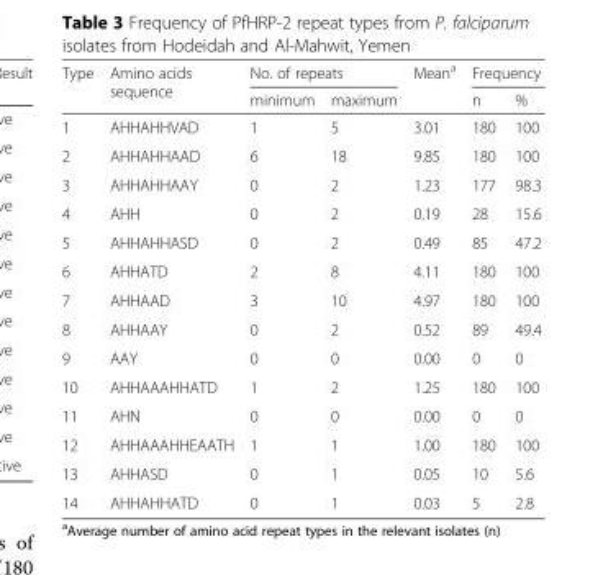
<table><thead><tr><td rowspan="2">Type</td><td rowspan="2">Amino acids sequence</td><td colspan="2">No. of repeats</td><td rowspan="2">Mean<sup>a</sup></td><td colspan="2">Frequency</td></tr><tr><td>minimum</td><td>maximum</td><td>n</td><td>%</td></tr></thead><tbody><tr><td>1</td><td>AHHAHHVAD</td><td>1</td><td>5</td><td>3.01</td><td>180</td><td>100</td></tr><tr><td>2</td><td>AHHAHHAAD</td><td>6</td><td>18</td><td>9.85</td><td>180</td><td>100</td></tr><tr><td>3</td><td>AHHAHHAAY</td><td>0</td><td>2</td><td>1.23</td><td>177</td><td>98.3</td></tr><tr><td>4</td><td>AHH</td><td>0</td><td>2</td><td>0.19</td><td>28</td><td>15.6</td></tr><tr><td>5</td><td>AHHAHHASD</td><td>0</td><td>2</td><td>0.49</td><td>85</td><td>47.2</td></tr><tr><td>6</td><td>AHHATD</td><td>2</td><td>8</td><td>4.11</td><td>180</td><td>100</td></tr><tr><td>7</td><td>AHHAAD</td><td>3</td><td>10</td><td>4.97</td><td>180</td><td>100</td></tr><tr><td>8</td><td>AHHAAY</td><td>0</td><td>2</td><td>0.52</td><td>89</td><td>49.4</td></tr><tr><td>9</td><td>AAY</td><td>0</td><td>0</td><td>0.00</td><td>0</td><td>0</td></tr><tr><td>10</td><td>AHHAAAHHATD</td><td>1</td><td>2</td><td>1.25</td><td>180</td><td>100</td></tr><tr><td>11</td><td>AHN</td><td>0</td><td>0</td><td>0.00</td><td>0</td><td>0</td></tr><tr><td>12</td><td>AHHAAAHHEAATH</td><td>1</td><td>1</td><td>1.00</td><td>180</td><td>100</td></tr><tr><td>13</td><td>AHHASD</td><td>0</td><td>1</td><td>0.05</td><td>10</td><td>5.6</td></tr><tr><td>14</td><td>AHHAHHATD</td><td>0</td><td>1</td><td>0.03</td><td>5</td><td>2.8</td></tr></tbody></table>